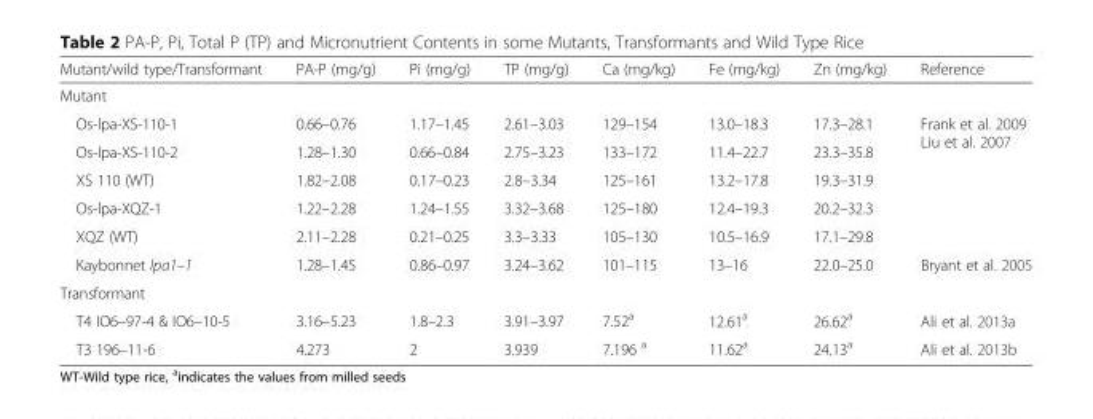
<table><thead><tr><td>Mutant/wild type/Transformant</td><td>PA-P (mg/g)</td><td>Pi (mg/g)</td><td>TP (mg/g)</td><td>Ca (mg/kg)</td><td>Fe (mg/kg)</td><td>Zn (mg/kg)</td><td>Reference</td></tr></thead><tbody><tr><td colspan="8">Mutant</td></tr><tr><td>Os-lpa-XS-110-1</td><td>0.66–0.76</td><td>1.17–1.45</td><td>2.61–3.03</td><td>129–154</td><td>13.0–18.3</td><td>17.3–28.1</td><td rowspan="5">Frank et al. 2009 Liu et al. 2007</td></tr><tr><td>Os-lpa-XS-110-2</td><td>1.28–1.30</td><td>0.66–0.84</td><td>2.75–3.23</td><td>133–172</td><td>11.4–22.7</td><td>23.3–35.8</td></tr><tr><td>XS 110 (WT)</td><td>1.82–2.08</td><td>0.17–0.23</td><td>2.8–3.34</td><td>125–161</td><td>13.2–17.8</td><td>19.3–31.9</td></tr><tr><td>Os-lpa-XQZ-1</td><td>1.22–2.28</td><td>1.24–1.55</td><td>3.32–3.68</td><td>125–180</td><td>12.4–19.3</td><td>20.2–32.3</td></tr><tr><td>XQZ (WT)</td><td>2.11–2.28</td><td>0.21–0.25</td><td>3.3–3.33</td><td>105–130</td><td>10.5–16.9</td><td>17.1–29.8</td></tr><tr><td>Kaybonnet lpa1–1</td><td>1.28–1.45</td><td>0.86–0.97</td><td>3.24–3.62</td><td>101–115</td><td>13–16</td><td>22.0–25.0</td><td>Bryant et al. 2005</td></tr><tr><td colspan="8">Transformant</td></tr><tr><td>T4 IO6–97-4 &amp; IO6–10-5</td><td>3.16–5.23</td><td>1.8–2.3</td><td>3.91–3.97</td><td>7.52<sup>a</sup></td><td>12.61<sup>a</sup></td><td>26.62<sup>a</sup></td><td>Ali et al. 2013a</td></tr><tr><td>T3 196–11-6</td><td>4.273</td><td>2</td><td>3.939</td><td>7.196 <sup>a</sup></td><td>11.62<sup>a</sup></td><td>24.13<sup>a</sup></td><td>Ali et al. 2013b</td></tr></tbody></table>